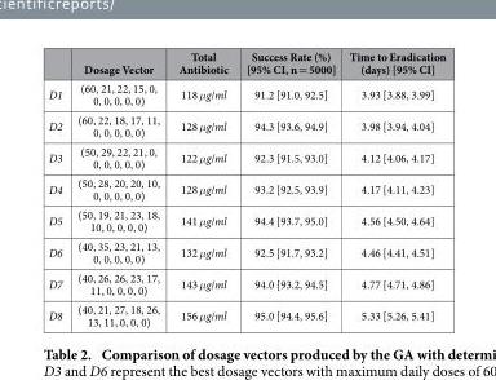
<table><thead><tr><td></td><td>Dosage Vector</td><td>Total Antibiotic</td><td>Success Rate (%) [95% CI, n = 5000]</td><td>Time to Eradication (days) [95% CI]</td></tr></thead><tbody><tr><td>D1</td><td>(60, 21, 22, 15, 0, 0, 0, 0, 0, 0)</td><td>118 μg/ml</td><td>91.2 [91.0, 92.5]</td><td>3.93 [3.88, 3.99]</td></tr><tr><td>D2</td><td>(60, 22, 18, 17, 11, 0, 0, 0, 0, 0)</td><td>128 μg/ml</td><td>94.3 [93.6, 94.9]</td><td>3.98 [3.94, 4.04]</td></tr><tr><td>D3</td><td>(50, 29, 22, 21, 0, 0, 0, 0, 0, 0)</td><td>122 μg/ml</td><td>92.3 [91.5, 93.0]</td><td>4.12 [4.06, 4.17]</td></tr><tr><td>D4</td><td>(50, 28, 20, 20, 10, 0, 0, 0, 0, 0)</td><td>128 μg/ml</td><td>93.2 [92.5, 93.9]</td><td>4.17 [4.11, 4.23]</td></tr><tr><td>D5</td><td>(50, 19, 21, 23, 18, 10, 0, 0, 0, 0)</td><td>141 μg/ml</td><td>94.4 [93.7, 95.0]</td><td>4.56 [4.50, 4.64]</td></tr><tr><td>D6</td><td>(40, 35, 23, 21, 13, 0, 0, 0, 0, 0)</td><td>132 μg/ml</td><td>92.5 [91.7, 93.2]</td><td>4.46 [4.41, 4.51]</td></tr><tr><td>D7</td><td>(40, 26, 26, 23, 17, 11, 0, 0, 0, 0)</td><td>143 μg/ml</td><td>94.0 [93.2, 94.5]</td><td>4.77 [4.71, 4.86]</td></tr><tr><td>D8</td><td>(40, 21, 27, 18, 26, 13, 11, 0, 0, 0)</td><td>156 μg/ml</td><td>95.0 [94.4, 95.6]</td><td>5.33 [5.26, 5.41]</td></tr></tbody></table>